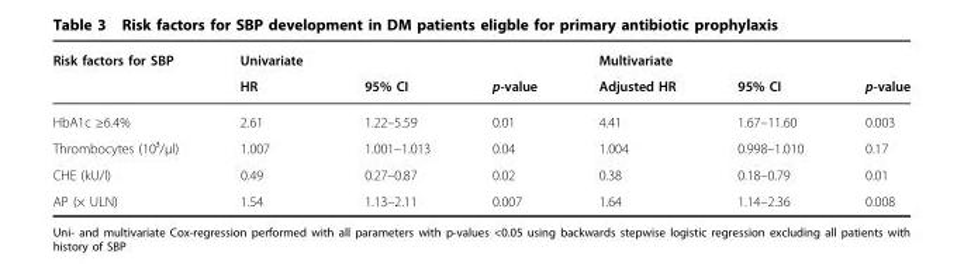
<table><thead><tr><td rowspan="2">Risk factors for SBP</td><td rowspan="2">Univariate HR</td><td rowspan="2">95% CI</td><td rowspan="2">p-value</td><td rowspan="2">Multivariate Adjusted HR</td><td rowspan="2">95% CI</td><td rowspan="2">p-value</td></tr><tr></tr></thead><tbody><tr><td>HbA1c ≥6.4%</td><td>2.61</td><td>1.22–5.59</td><td>0.01</td><td>4.41</td><td>1.67–11.60</td><td>0.003</td></tr><tr><td>Thrombocytes (10³/μl)</td><td>1.007</td><td>1.001–1.013</td><td>0.04</td><td>1.004</td><td>0.998–1.010</td><td>0.17</td></tr><tr><td>CHE (kU/l)</td><td>0.49</td><td>0.27–0.87</td><td>0.02</td><td>0.38</td><td>0.18–0.79</td><td>0.01</td></tr><tr><td>AP (× ULN)</td><td>1.54</td><td>1.13–2.11</td><td>0.007</td><td>1.64</td><td>1.14–2.36</td><td>0.008</td></tr></tbody></table>